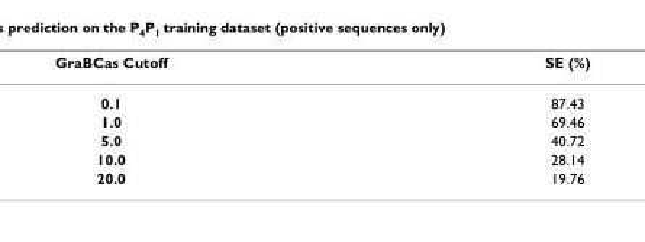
<table><thead><tr><td>GraBCas Cutoff</td><td>SE (%)</td></tr></thead><tbody><tr><td>0.1</td><td>87.43</td></tr><tr><td>1.0</td><td>69.46</td></tr><tr><td>5.0</td><td>40.72</td></tr><tr><td>10.0</td><td>28.14</td></tr><tr><td>20.0</td><td>19.76</td></tr></tbody></table>